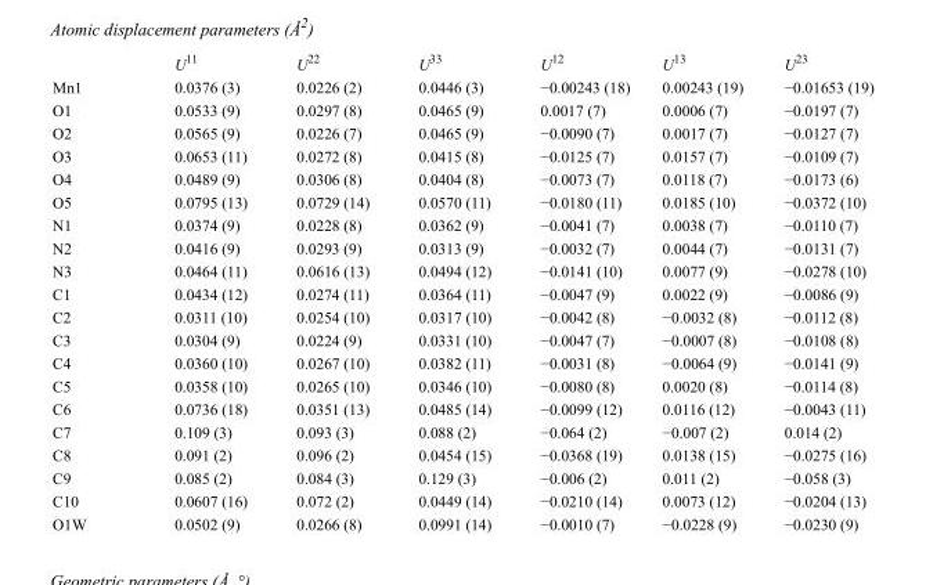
<table><thead><tr><td></td><td>U<sup>11</sup></td><td>U<sup>22</sup></td><td>U<sup>33</sup></td><td>U<sup>12</sup></td><td>U<sup>13</sup></td><td>U<sup>23</sup></td></tr></thead><tbody><tr><td>Mn1</td><td>0.0376 (3)</td><td>0.0226 (2)</td><td>0.0446 (3)</td><td>−0.00243 (18)</td><td>0.00243 (19)</td><td>−0.01653 (19)</td></tr><tr><td>O1</td><td>0.0533 (9)</td><td>0.0297 (8)</td><td>0.0465 (9)</td><td>0.0017 (7)</td><td>0.0006 (7)</td><td>−0.0197 (7)</td></tr><tr><td>O2</td><td>0.0565 (9)</td><td>0.0226 (7)</td><td>0.0465 (9)</td><td>−0.0090 (7)</td><td>0.0017 (7)</td><td>−0.0127 (7)</td></tr><tr><td>O3</td><td>0.0653 (11)</td><td>0.0272 (8)</td><td>0.0415 (8)</td><td>−0.0125 (7)</td><td>0.0157 (7)</td><td>−0.0109 (7)</td></tr><tr><td>O4</td><td>0.0489 (9)</td><td>0.0306 (8)</td><td>0.0404 (8)</td><td>−0.0073 (7)</td><td>0.0118 (7)</td><td>−0.0173 (6)</td></tr><tr><td>O5</td><td>0.0795 (13)</td><td>0.0729 (14)</td><td>0.0570 (11)</td><td>−0.0180 (11)</td><td>0.0185 (10)</td><td>−0.0372 (10)</td></tr><tr><td>N1</td><td>0.0374 (9)</td><td>0.0228 (8)</td><td>0.0362 (9)</td><td>−0.0041 (7)</td><td>0.0038 (7)</td><td>−0.0110 (7)</td></tr><tr><td>N2</td><td>0.0416 (9)</td><td>0.0293 (9)</td><td>0.0313 (9)</td><td>−0.0032 (7)</td><td>0.0044 (7)</td><td>−0.0131 (7)</td></tr><tr><td>N3</td><td>0.0464 (11)</td><td>0.0616 (13)</td><td>0.0494 (12)</td><td>−0.0141 (10)</td><td>0.0077 (9)</td><td>−0.0278 (10)</td></tr><tr><td>C1</td><td>0.0434 (12)</td><td>0.0274 (11)</td><td>0.0364 (11)</td><td>−0.0047 (9)</td><td>0.0022 (9)</td><td>−0.0086 (9)</td></tr><tr><td>C2</td><td>0.0311 (10)</td><td>0.0254 (10)</td><td>0.0317 (10)</td><td>−0.0042 (8)</td><td>−0.0032 (8)</td><td>−0.0112 (8)</td></tr><tr><td>C3</td><td>0.0304 (9)</td><td>0.0224 (9)</td><td>0.0331 (10)</td><td>−0.0047 (7)</td><td>−0.0007 (8)</td><td>−0.0108 (8)</td></tr><tr><td>C4</td><td>0.0360 (10)</td><td>0.0267 (10)</td><td>0.0382 (11)</td><td>−0.0031 (8)</td><td>−0.0064 (9)</td><td>−0.0141 (9)</td></tr><tr><td>C5</td><td>0.0358 (10)</td><td>0.0265 (10)</td><td>0.0346 (10)</td><td>−0.0080 (8)</td><td>0.0020 (8)</td><td>−0.0114 (8)</td></tr><tr><td>C6</td><td>0.0736 (18)</td><td>0.0351 (13)</td><td>0.0485 (14)</td><td>−0.0099 (12)</td><td>0.0116 (12)</td><td>−0.0043 (11)</td></tr><tr><td>C7</td><td>0.109 (3)</td><td>0.093 (3)</td><td>0.088 (2)</td><td>−0.064 (2)</td><td>−0.007 (2)</td><td>0.014 (2)</td></tr><tr><td>C8</td><td>0.091 (2)</td><td>0.096 (2)</td><td>0.0454 (15)</td><td>−0.0368 (19)</td><td>0.0138 (15)</td><td>−0.0275 (16)</td></tr><tr><td>C9</td><td>0.085 (2)</td><td>0.084 (3)</td><td>0.129 (3)</td><td>−0.006 (2)</td><td>0.011 (2)</td><td>−0.058 (3)</td></tr><tr><td>C10</td><td>0.0607 (16)</td><td>0.072 (2)</td><td>0.0449 (14)</td><td>−0.0210 (14)</td><td>0.0073 (12)</td><td>−0.0204 (13)</td></tr><tr><td>O1W</td><td>0.0502 (9)</td><td>0.0266 (8)</td><td>0.0991 (14)</td><td>−0.0010 (7)</td><td>−0.0228 (9)</td><td>−0.0230 (9)</td></tr></tbody></table>